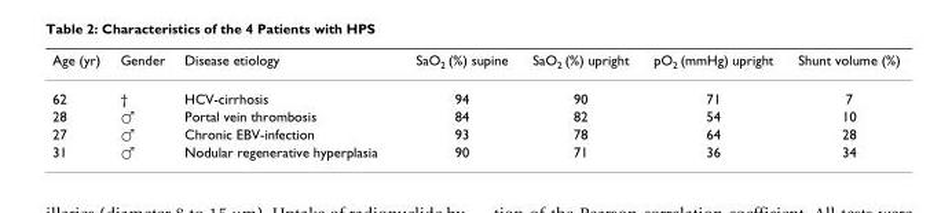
<table><thead><tr><td>Age (yr)</td><td>Gender</td><td>Disease etiology</td><td>SaO2 (%) supine</td><td>SaO2 (%) upright</td><td>pO2 (mmHg) upright</td><td>Shunt volume (%)</td></tr></thead><tbody><tr><td>62</td><td>†</td><td>HCV-cirrhosis</td><td>94</td><td>90</td><td>71</td><td>7</td></tr><tr><td>28</td><td>♂</td><td>Portal vein thrombosis</td><td>84</td><td>82</td><td>54</td><td>10</td></tr><tr><td>27</td><td>♂</td><td>Chronic EBV-infection</td><td>93</td><td>78</td><td>64</td><td>28</td></tr><tr><td>31</td><td>♂</td><td>Nodular regenerative hyperplasia</td><td>90</td><td>71</td><td>36</td><td>34</td></tr></tbody></table>